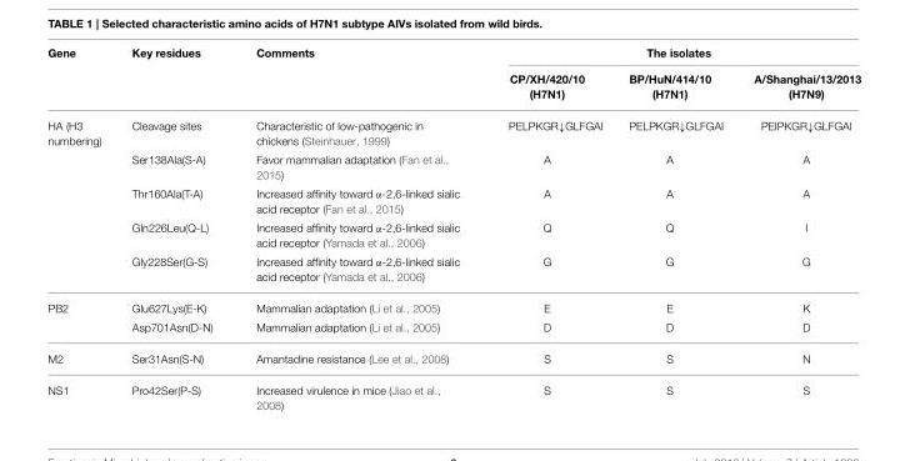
<table><thead><tr><td rowspan="2">Gene</td><td rowspan="2">Key residues</td><td rowspan="2">Comments</td><td colspan="3">The isolates</td></tr><tr><td>CP/XH/420/10 (H7N1)</td><td>BP/HuN/414/10 (H7N1)</td><td>A/Shanghai/13/2013 (H7N9)</td></tr></thead><tbody><tr><td rowspan="5">HA (H3 numbering)</td><td>Cleavage sites</td><td>Characteristic of low-pathogenic in chickens (Steinhauer, 1999)</td><td>PELPKGR↓GLFGAI</td><td>PELPKGR↓GLFGAI</td><td>PEIPKGR↓GLFGAI</td></tr><tr><td>Ser138Ala(S-A)</td><td>Favor mammalian adaptation (Fan et al., 2015)</td><td>A</td><td>A</td><td>A</td></tr><tr><td>Thr160Ala(T-A)</td><td>Increased affinity toward α-2,6-linked sialic acid receptor (Fan et al., 2015)</td><td>A</td><td>A</td><td>A</td></tr><tr><td>Gln226Leu(Q-L)</td><td>Increased affinity toward α-2,6-linked sialic acid receptor (Yamada et al., 2006)</td><td>Q</td><td>Q</td><td>I</td></tr><tr><td>Gly228Ser(G-S)</td><td>Increased affinity toward α-2,6-linked sialic acid receptor (Yamada et al., 2006)</td><td>G</td><td>G</td><td>G</td></tr><tr><td rowspan="2">PB2</td><td>Glu627Lys(E-K)</td><td>Mammalian adaptation (Li et al., 2005)</td><td>E</td><td>E</td><td>K</td></tr><tr><td>Asp701Asn(D-N)</td><td>Mammalian adaptation (Li et al., 2005)</td><td>D</td><td>D</td><td>D</td></tr><tr><td>M2</td><td>Ser31Asn(S-N)</td><td>Amantadine resistance (Lee et al., 2008)</td><td>S</td><td>S</td><td>N</td></tr><tr><td>NS1</td><td>Pro42Ser(P-S)</td><td>Increased virulence in mice (Jiao et al., 2008)</td><td>S</td><td>S</td><td>S</td></tr></tbody></table>